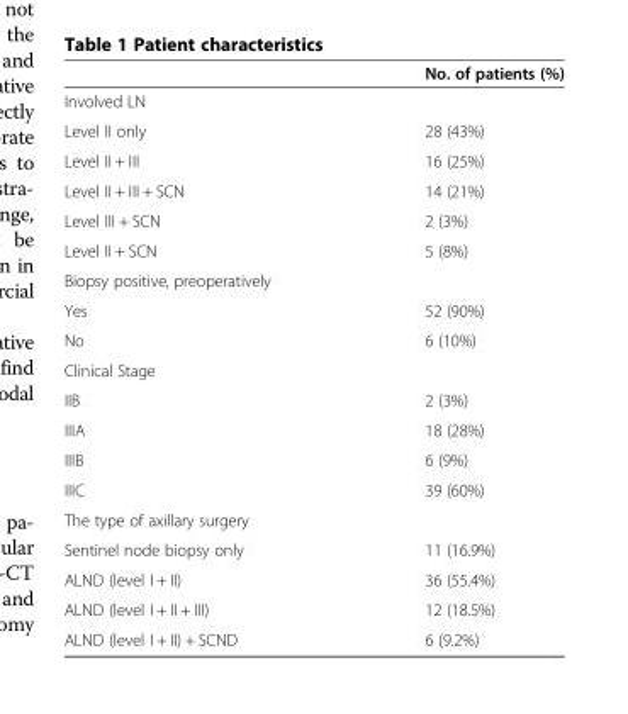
<table><thead><tr><td></td><td>No. of patients (%)</td></tr></thead><tbody><tr><td colspan="2">Involved LN</td></tr><tr><td>Level II only</td><td>28 (43%)</td></tr><tr><td>Level II + III</td><td>16 (25%)</td></tr><tr><td>Level II + III + SCN</td><td>14 (21%)</td></tr><tr><td>Level III + SCN</td><td>2 (3%)</td></tr><tr><td>Level II + SCN</td><td>5 (8%)</td></tr><tr><td colspan="2">Biopsy positive, preoperatively</td></tr><tr><td>Yes</td><td>52 (90%)</td></tr><tr><td>No</td><td>6 (10%)</td></tr><tr><td colspan="2">Clinical Stage</td></tr><tr><td>IIB</td><td>2 (3%)</td></tr><tr><td>IIIA</td><td>18 (28%)</td></tr><tr><td>IIIB</td><td>6 (9%)</td></tr><tr><td>IIIC</td><td>39 (60%)</td></tr><tr><td colspan="2">The type of axillary surgery</td></tr><tr><td>Sentinel node biopsy only</td><td>11 (16.9%)</td></tr><tr><td>ALND (level I + II)</td><td>36 (55.4%)</td></tr><tr><td>ALND (level I + II + III)</td><td>12 (18.5%)</td></tr><tr><td>ALND (level I + II) + SCND</td><td>6 (9.2%)</td></tr></tbody></table>